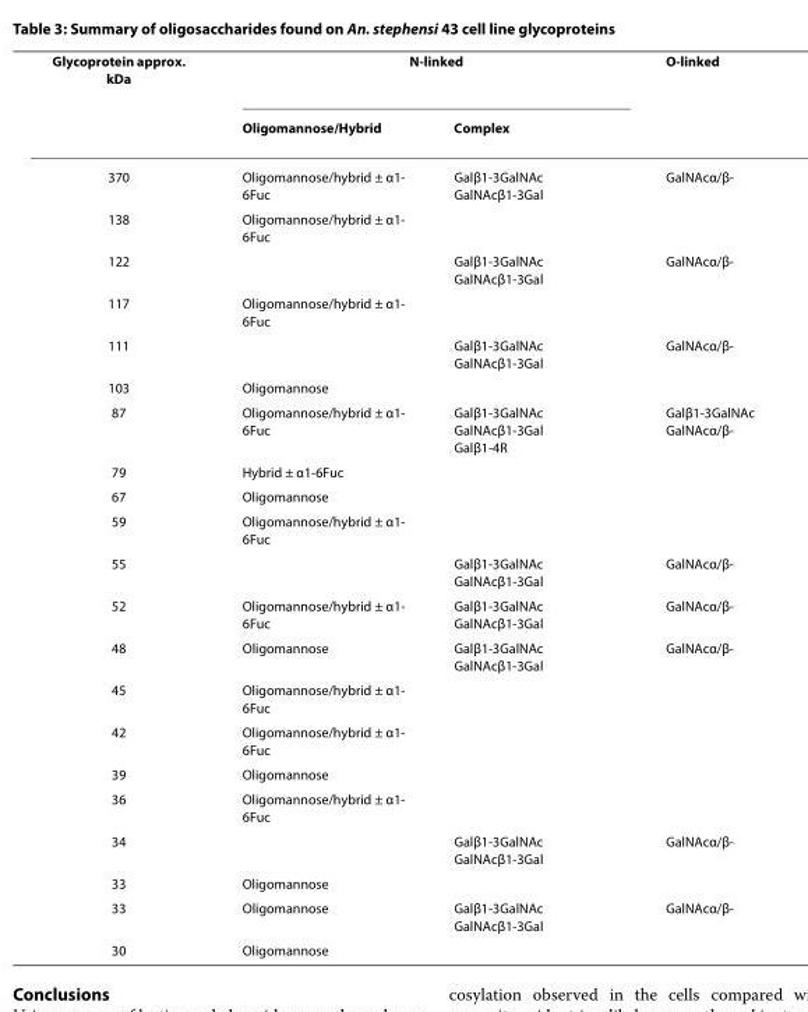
<table><thead><tr><td rowspan="2">Glycoprotein approx. kDa</td><td colspan="2">N-linked</td><td rowspan="2">O-linked</td></tr><tr><td>Oligomannose/Hybrid</td><td>Complex</td></tr></thead><tbody><tr><td>370</td><td>Oligomannose/hybrid ± α1- 6Fuc</td><td>Galβ1-3GalNAc GalNAcβ1-3Gal</td><td>GalNAcα/β-</td></tr><tr><td>138</td><td>Oligomannose/hybrid ± α1- 6Fuc</td><td></td><td></td></tr><tr><td>122</td><td></td><td>Galβ1-3GalNAc GalNAcβ1-3Gal</td><td>GalNAcα/β-</td></tr><tr><td>117</td><td>Oligomannose/hybrid ± α1- 6Fuc</td><td></td><td></td></tr><tr><td>111</td><td></td><td>Galβ1-3GalNAc GalNAcβ1-3Gal</td><td>GalNAcα/β-</td></tr><tr><td>103</td><td>Oligomannose</td><td></td><td></td></tr><tr><td>87</td><td>Oligomannose/hybrid ± α1- 6Fuc</td><td>Galβ1-3GalNAc GalNAcβ1-3Gal Galβ1-4R</td><td>Galβ1-3GalNAc GalNAcα/β-</td></tr><tr><td>79</td><td>Hybrid ± α1-6Fuc</td><td></td><td></td></tr><tr><td>67</td><td>Oligomannose</td><td></td><td></td></tr><tr><td>59</td><td>Oligomannose/hybrid ± α1- 6Fuc</td><td></td><td></td></tr><tr><td>55</td><td></td><td>Galβ1-3GalNAc GalNAcβ1-3Gal</td><td>GalNAcα/β-</td></tr><tr><td>52</td><td>Oligomannose/hybrid ± α1- 6Fuc</td><td>Galβ1-3GalNAc GalNAcβ1-3Gal</td><td>GalNAcα/β-</td></tr><tr><td>48</td><td>Oligomannose</td><td>Galβ1-3GalNAc GalNAcβ1-3Gal</td><td>GalNAcα/β-</td></tr><tr><td>45</td><td>Oligomannose/hybrid ± α1- 6Fuc</td><td></td><td></td></tr><tr><td>42</td><td>Oligomannose/hybrid ± α1- 6Fuc</td><td></td><td></td></tr><tr><td>39</td><td>Oligomannose</td><td></td><td></td></tr><tr><td>36</td><td>Oligomannose/hybrid ± α1- 6Fuc</td><td></td><td></td></tr><tr><td>34</td><td></td><td>Galβ1-3GalNAc GalNAcβ1-3Gal</td><td>GalNAcα/β-</td></tr><tr><td>33</td><td>Oligomannose</td><td></td><td></td></tr><tr><td>33</td><td>Oligomannose</td><td>Galβ1-3GalNAc GalNAcβ1-3Gal</td><td>GalNAcα/β-</td></tr><tr><td>30</td><td>Oligomannose</td><td></td><td></td></tr></tbody></table>